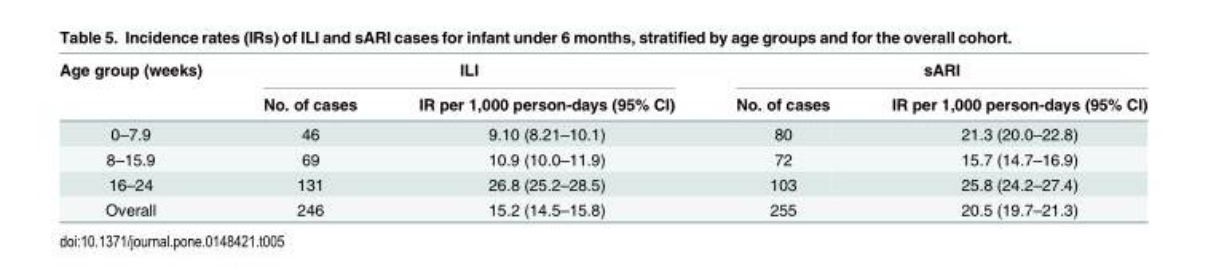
<table><thead><tr><td rowspan="2">Age group (weeks)</td><td colspan="2">ILI</td><td colspan="2">sARI</td></tr><tr><td>No. of cases</td><td>IR per 1,000 person-days (95% CI)</td><td>No. of cases</td><td>IR per 1,000 person-days (95% CI)</td></tr></thead><tbody><tr><td>0–7.9</td><td>46</td><td>9.10 (8.21–10.1)</td><td>80</td><td>21.3 (20.0–22.8)</td></tr><tr><td>8–15.9</td><td>69</td><td>10.9 (10.0–11.9)</td><td>72</td><td>15.7 (14.7–16.9)</td></tr><tr><td>16–24</td><td>131</td><td>26.8 (25.2–28.5)</td><td>103</td><td>25.8 (24.2–27.4)</td></tr><tr><td>Overall</td><td>246</td><td>15.2 (14.5–15.8)</td><td>255</td><td>20.5 (19.7–21.3)</td></tr></tbody></table>